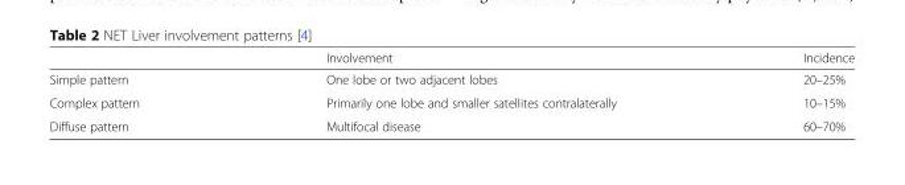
<table><thead><tr><td></td><td>Involvement</td><td>Incidence</td></tr></thead><tbody><tr><td>Simple pattern</td><td>One lobe or two adjacent lobes</td><td>20–25%</td></tr><tr><td>Complex pattern</td><td>Primarily one lobe and smaller satellites contralaterally</td><td>10–15%</td></tr><tr><td>Diffuse pattern</td><td>Multifocal disease</td><td>60–70%</td></tr></tbody></table>